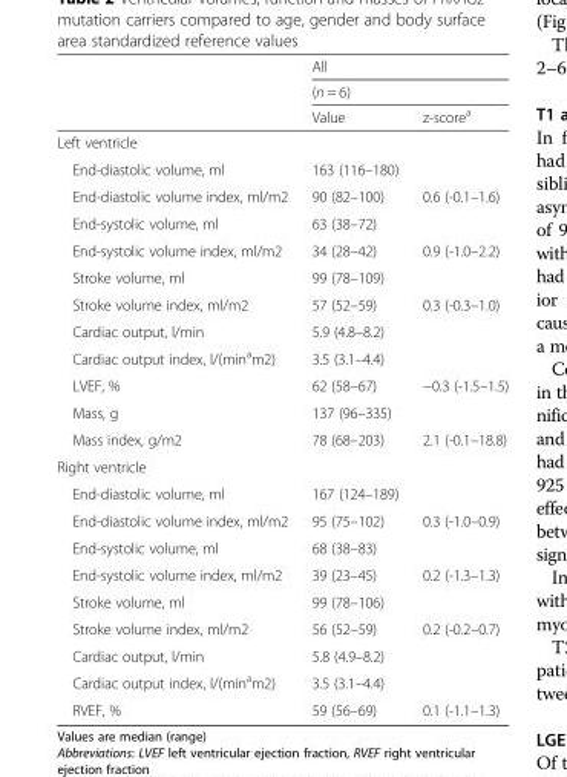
<table><thead><tr><td rowspan="3"></td><td rowspan="2" colspan="2">All (n = 6)</td></tr><tr></tr><tr><td>Value</td><td>z-score<sup>a</sup></td></tr></thead><tbody><tr><td colspan="3">Left ventricle</td></tr><tr><td>End-diastolic volume, ml</td><td>163 (116–180)</td><td></td></tr><tr><td>End-diastolic volume index, ml/m2</td><td>90 (82–100)</td><td>0.6 (-0.1–1.6)</td></tr><tr><td>End-systolic volume, ml</td><td>63 (38–72)</td><td></td></tr><tr><td>End-systolic volume index, ml/m2</td><td>34 (28–42)</td><td>0.9 (-1.0–2.2)</td></tr><tr><td>Stroke volume, ml</td><td>99 (78–109)</td><td></td></tr><tr><td>Stroke volume index, ml/m2</td><td>57 (52–59)</td><td>0.3 (-0.3–1.0)</td></tr><tr><td>Cardiac output, l/min</td><td>5.9 (4.8–8.2)</td><td></td></tr><tr><td>Cardiac output index, l/(min<sup>a</sup>m2)</td><td>3.5 (3.1–4.4)</td><td></td></tr><tr><td>LVEF, %</td><td>62 (58–67)</td><td>−0.3 (-1.5–1.5)</td></tr><tr><td>Mass, g</td><td>137 (96–335)</td><td></td></tr><tr><td>Mass index, g/m2</td><td>78 (68–203)</td><td>2.1 (-0.1–18.8)</td></tr><tr><td colspan="3">Right ventricle</td></tr><tr><td>End-diastolic volume, ml</td><td>167 (124–189)</td><td></td></tr><tr><td>End-diastolic volume index, ml/m2</td><td>95 (75–102)</td><td>0.3 (-1.0–0.9)</td></tr><tr><td>End-systolic volume, ml</td><td>68 (38–83)</td><td></td></tr><tr><td>End-systolic volume index, ml/m2</td><td>39 (23–45)</td><td>0.2 (-1.3–1.3)</td></tr><tr><td>Stroke volume, ml</td><td>99 (78–106)</td><td></td></tr><tr><td>Stroke volume index, ml/m2</td><td>56 (52–59)</td><td>0.2 (-0.2–0.7)</td></tr><tr><td>Cardiac output, l/min</td><td>5.8 (4.9–8.2)</td><td></td></tr><tr><td>Cardiac output index, l/(min<sup>a</sup>m2)</td><td>3.5 (3.1–4.4)</td><td></td></tr><tr><td>RVEF, %</td><td>59 (56–69)</td><td>0.1 (-1.1–1.3)</td></tr></tbody></table>